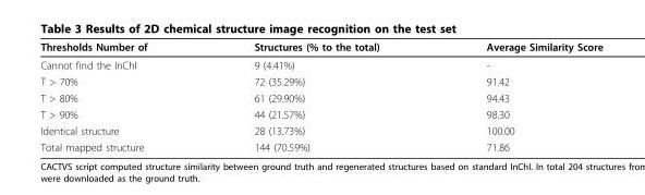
<table><thead><tr><td>Thresholds Number of</td><td>Structures (% to the total)</td><td>Average Similarity Score</td></tr></thead><tbody><tr><td>Cannot find the InChI</td><td>9 (4.41%)</td><td>-</td></tr><tr><td>T &gt; 70%</td><td>72 (35.29%)</td><td>91.42</td></tr><tr><td>T &gt; 80%</td><td>61 (29.90%)</td><td>94.43</td></tr><tr><td>T &gt; 90%</td><td>44 (21.57%)</td><td>98.30</td></tr><tr><td>Identical structure</td><td>28 (13.73%)</td><td>100.00</td></tr><tr><td>Total mapped structure</td><td>144 (70.59%)</td><td>71.86</td></tr></tbody></table>